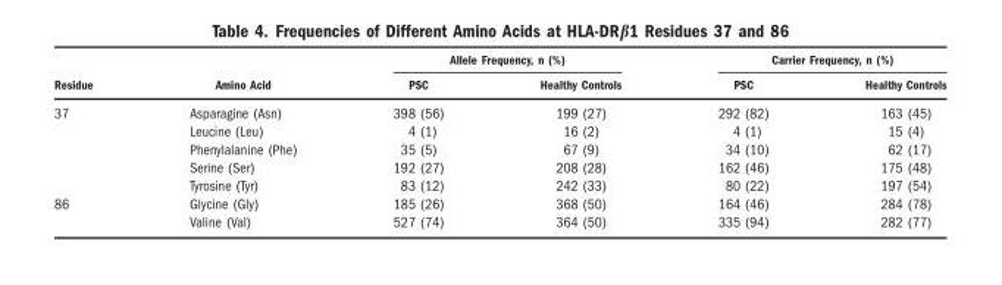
<table><thead><tr><td rowspan="2">Residue</td><td rowspan="2">Amino Acid</td><td colspan="2">Allele Frequency, n (%)</td><td colspan="2">Carrier Frequency, n (%)</td></tr><tr><td>PSC</td><td>Healthy Controls</td><td>PSC</td><td>Healthy Controls</td></tr></thead><tbody><tr><td rowspan="5">37</td><td>Asparagine (Asn)</td><td>398 (56)</td><td>199 (27)</td><td>292 (82)</td><td>163 (45)</td></tr><tr><td>Leucine (Leu)</td><td>4 (1)</td><td>16 (2)</td><td>4 (1)</td><td>15 (4)</td></tr><tr><td>Phenylalanine (Phe)</td><td>35 (5)</td><td>67 (9)</td><td>34 (10)</td><td>62 (17)</td></tr><tr><td>Serine (Ser)</td><td>192 (27)</td><td>208 (28)</td><td>162 (46)</td><td>175 (48)</td></tr><tr><td>Tyrosine (Tyr)</td><td>83 (12)</td><td>242 (33)</td><td>80 (22)</td><td>197 (54)</td></tr><tr><td rowspan="2">86</td><td>Glycine (Gly)</td><td>185 (26)</td><td>368 (50)</td><td>164 (46)</td><td>284 (78)</td></tr><tr><td>Valine (Val)</td><td>527 (74)</td><td>364 (50)</td><td>335 (94)</td><td>282 (77)</td></tr></tbody></table>